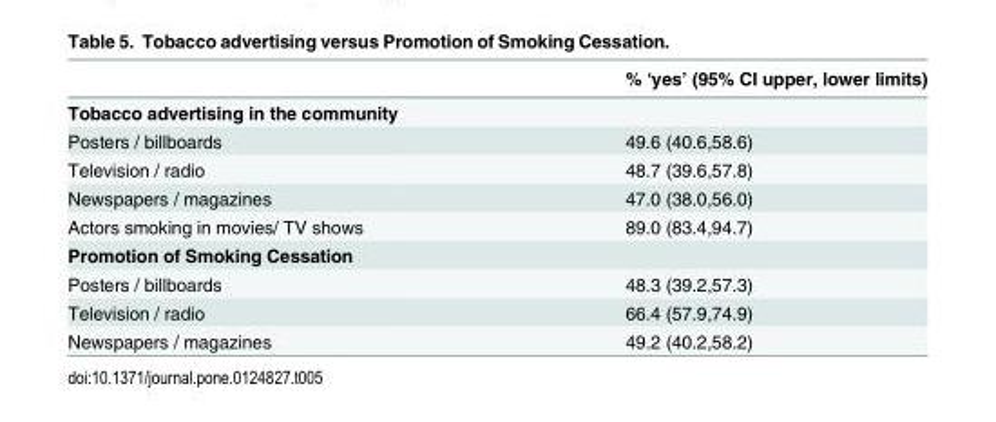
<table><thead><tr><td></td><td>% ‘yes’ (95% CI upper, lower limits)</td></tr></thead><tbody><tr><td colspan="2">Tobacco advertising in the community</td></tr><tr><td>Posters / billboards</td><td>49.6 (40.6,58.6)</td></tr><tr><td>Television / radio</td><td>48.7 (39.6,57.8)</td></tr><tr><td>Newspapers / magazines</td><td>47.0 (38.0,56.0)</td></tr><tr><td>Actors smoking in movies/ TV shows</td><td>89.0 (83.4,94.7)</td></tr><tr><td colspan="2">Promotion of Smoking Cessation</td></tr><tr><td>Posters / billboards</td><td>48.3 (39.2,57.3)</td></tr><tr><td>Television / radio</td><td>66.4 (57.9,74.9)</td></tr><tr><td>Newspapers / magazines</td><td>49.2 (40.2,58.2)</td></tr></tbody></table>